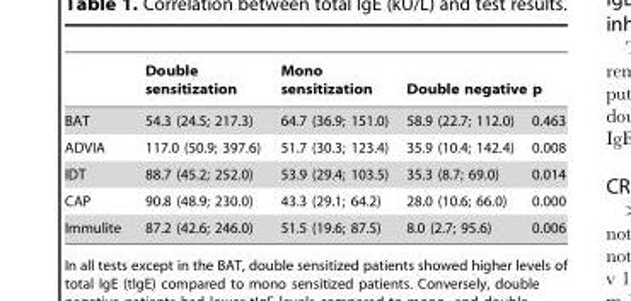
<table><thead><tr><td></td><td>Double sensitization</td><td>Mono sensitization</td><td>Double negative</td><td>p</td></tr></thead><tbody><tr><td>BAT</td><td>54.3 (24.5; 217.3)</td><td>64.7 (36.9; 151.0)</td><td>58.9 (22.7; 112.0)</td><td>0.463</td></tr><tr><td>ADVIA</td><td>117.0 (50.9; 397.6)</td><td>51.7 (30.3; 123.4)</td><td>35.9 (10.4; 142.4)</td><td>0.008</td></tr><tr><td>IDT</td><td>88.7 (45.2; 252.0)</td><td>53.9 (29.4; 103.5)</td><td>35.3 (8.7; 69.0)</td><td>0.014</td></tr><tr><td>CAP</td><td>90.8 (48.9; 230.0)</td><td>43.3 (29.1; 64.2)</td><td>28.0 (10.6; 66.0)</td><td>0.000</td></tr><tr><td>Immulite</td><td>87.2 (42.6; 246.0)</td><td>51.5 (19.6; 87.5)</td><td>8.0 (2.7; 95.6)</td><td>0.006</td></tr></tbody></table>